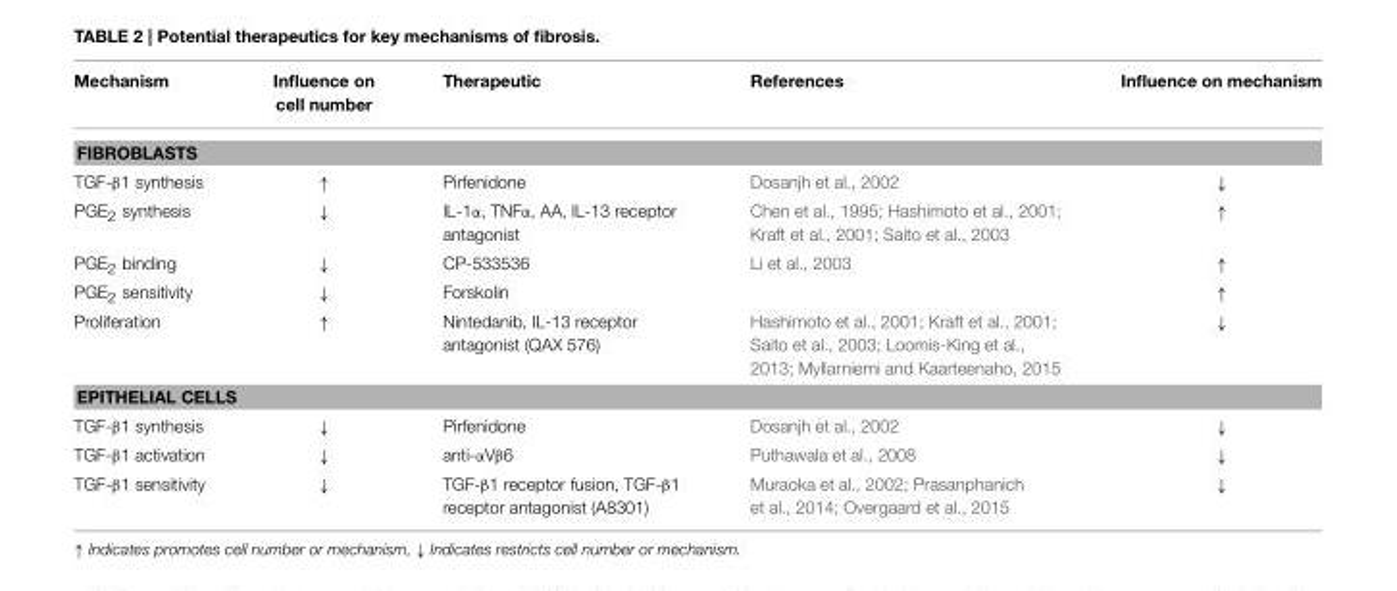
<table><thead><tr><td>Mechanism</td><td>Influence on cell number</td><td>Therapeutic</td><td>References</td><td>Influence on mechanism</td></tr></thead><tbody><tr><td colspan="5">FIBROBLASTS</td></tr><tr><td>TGF-β1 synthesis</td><td>↑</td><td>Pirfenidone</td><td>Dosanjh et al., 2002</td><td>↓</td></tr><tr><td>PGE2 synthesis</td><td>↓</td><td>IL-1α, TNFα, AA, IL-13 receptor antagonist</td><td>Chen et al., 1995; Hashimoto et al., 2001; Kraft et al., 2001; Saito et al., 2003</td><td>↑</td></tr><tr><td>PGE2 binding</td><td>↓</td><td>CP-533536</td><td>Li et al., 2003</td><td>↑</td></tr><tr><td>PGE2 sensitivity</td><td>↓</td><td>Forskolin</td><td></td><td>↑</td></tr><tr><td>Proliferation</td><td>↑</td><td>Nintedanib, IL-13 receptor antagonist (QAX 576)</td><td>Hashimoto et al., 2001; Kraft et al., 2001; Saito et al., 2003; Loomis-King et al., 2013; Myllarniemi and Kaarteenaho, 2015</td><td>↓</td></tr><tr><td colspan="5">EPITHELIAL CELLS</td></tr><tr><td>TGF-β1 synthesis</td><td>↓</td><td>Pirfenidone</td><td>Dosanjh et al., 2002</td><td>↓</td></tr><tr><td>TGF-β1 activation</td><td>↓</td><td>anti-αVβ6</td><td>Puthawala et al., 2008</td><td>↓</td></tr><tr><td>TGF-β1 sensitivity</td><td>↓</td><td>TGF-β1 receptor fusion, TGF-β1 receptor antagonist (A8301)</td><td>Muraoka et al., 2002; Prasanphanich et al., 2014; Overgaard et al., 2015</td><td>↓</td></tr></tbody></table>